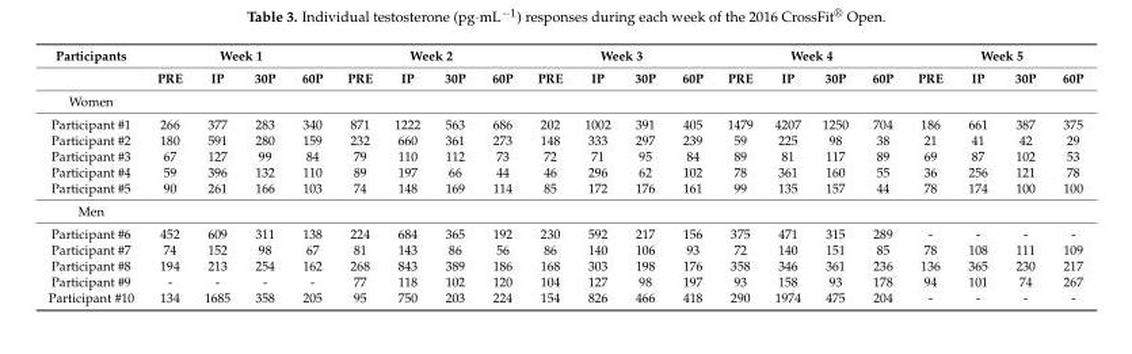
<table><thead><tr><td rowspan="2">Participants</td><td colspan="4">Week 1</td><td colspan="4">Week 2</td><td colspan="4">Week 3</td><td colspan="4">Week 4</td><td colspan="4">Week 5</td></tr><tr><td>PRE</td><td>IP</td><td>30P</td><td>60P</td><td>PRE</td><td>IP</td><td>30P</td><td>60P</td><td>PRE</td><td>IP</td><td>30P</td><td>60P</td><td>PRE</td><td>IP</td><td>30P</td><td>60P</td><td>PRE</td><td>IP</td><td>30P</td><td>60P</td></tr></thead><tbody><tr><td colspan="21">Women</td></tr><tr><td>Participant #1</td><td>266</td><td>377</td><td>283</td><td>340</td><td>871</td><td>1222</td><td>563</td><td>686</td><td>202</td><td>1002</td><td>391</td><td>405</td><td>1479</td><td>4207</td><td>1250</td><td>704</td><td>186</td><td>661</td><td>387</td><td>375</td></tr><tr><td>Participant #2</td><td>180</td><td>591</td><td>280</td><td>159</td><td>232</td><td>660</td><td>361</td><td>273</td><td>148</td><td>333</td><td>297</td><td>239</td><td>59</td><td>225</td><td>98</td><td>38</td><td>21</td><td>41</td><td>42</td><td>29</td></tr><tr><td>Participant #3</td><td>67</td><td>127</td><td>99</td><td>84</td><td>79</td><td>110</td><td>112</td><td>73</td><td>72</td><td>71</td><td>95</td><td>84</td><td>89</td><td>81</td><td>117</td><td>89</td><td>69</td><td>87</td><td>102</td><td>53</td></tr><tr><td>Participant #4</td><td>59</td><td>396</td><td>132</td><td>110</td><td>89</td><td>197</td><td>66</td><td>44</td><td>46</td><td>296</td><td>62</td><td>102</td><td>78</td><td>361</td><td>160</td><td>55</td><td>36</td><td>256</td><td>121</td><td>78</td></tr><tr><td>Participant #5</td><td>90</td><td>261</td><td>166</td><td>103</td><td>74</td><td>148</td><td>169</td><td>114</td><td>85</td><td>172</td><td>176</td><td>161</td><td>99</td><td>135</td><td>157</td><td>44</td><td>78</td><td>174</td><td>100</td><td>100</td></tr><tr><td colspan="21">Men</td></tr><tr><td>Participant #6</td><td>452</td><td>609</td><td>311</td><td>138</td><td>224</td><td>684</td><td>365</td><td>192</td><td>230</td><td>592</td><td>217</td><td>156</td><td>375</td><td>471</td><td>315</td><td>289</td><td>-</td><td>-</td><td>-</td><td>-</td></tr><tr><td>Participant #7</td><td>74</td><td>152</td><td>98</td><td>67</td><td>81</td><td>143</td><td>86</td><td>56</td><td>86</td><td>140</td><td>106</td><td>93</td><td>72</td><td>140</td><td>151</td><td>85</td><td>78</td><td>108</td><td>111</td><td>109</td></tr><tr><td>Participant #8</td><td>194</td><td>213</td><td>254</td><td>162</td><td>268</td><td>843</td><td>389</td><td>186</td><td>168</td><td>303</td><td>198</td><td>176</td><td>358</td><td>346</td><td>361</td><td>236</td><td>136</td><td>365</td><td>230</td><td>217</td></tr><tr><td>Participant #9</td><td>-</td><td>-</td><td>-</td><td>-</td><td>77</td><td>118</td><td>102</td><td>120</td><td>104</td><td>127</td><td>98</td><td>197</td><td>93</td><td>158</td><td>93</td><td>178</td><td>94</td><td>101</td><td>74</td><td>267</td></tr><tr><td>Participant #10</td><td>134</td><td>1685</td><td>358</td><td>205</td><td>95</td><td>750</td><td>203</td><td>224</td><td>154</td><td>826</td><td>466</td><td>418</td><td>290</td><td>1974</td><td>475</td><td>204</td><td>-</td><td>-</td><td>-</td><td>-</td></tr></tbody></table>